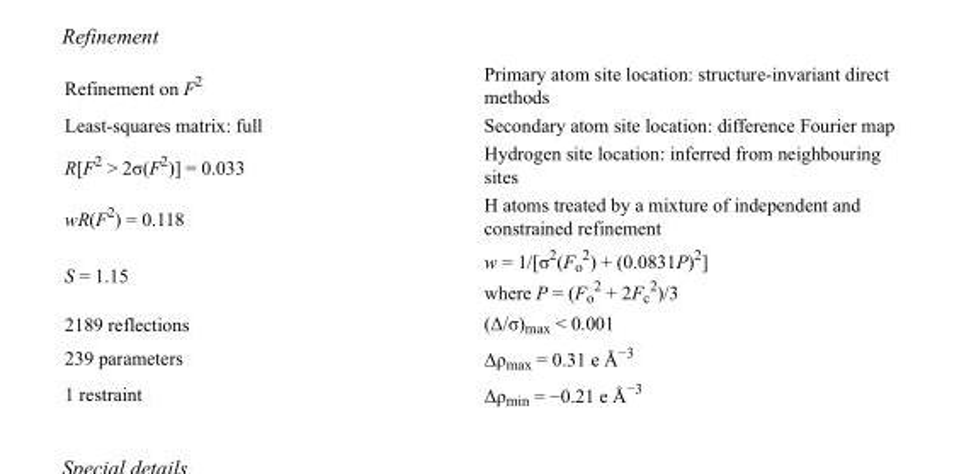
<table><tbody><tr><td>Refinement on F<sup>2</sup></td><td>Primary atom site location: structure-invariant direct methods</td></tr><tr><td>Least-squares matrix: full</td><td>Secondary atom site location: difference Fourier map</td></tr><tr><td>R[F<sup>2</sup> &gt; 2σ(F<sup>2</sup>)] = 0.033</td><td>Hydrogen site location: inferred from neighbouring sites</td></tr><tr><td>wR(F<sup>2</sup>) = 0.118</td><td>H atoms treated by a mixture of independent and constrained refinement</td></tr><tr><td>S = 1.15</td><td>w = 1/[σ<sup>2</sup>(F<sub>o</sub> <sup>2</sup>) + (0.0831P)<sup>2</sup>] where P = (F<sub>o</sub> <sup>2</sup> + 2F<sub>c</sub> <sup>2</sup>)/3</td></tr><tr><td>2189 reflections</td><td>(Δ/σ)<sub>max</sub> &lt; 0.001</td></tr><tr><td>239 parameters</td><td>Δρ<sub>max</sub> = 0.31 e Å<sup>−3</sup></td></tr><tr><td>1 restraint</td><td>Δρ<sub>min</sub> = −0.21 e Å<sup>−3</sup></td></tr></tbody></table>